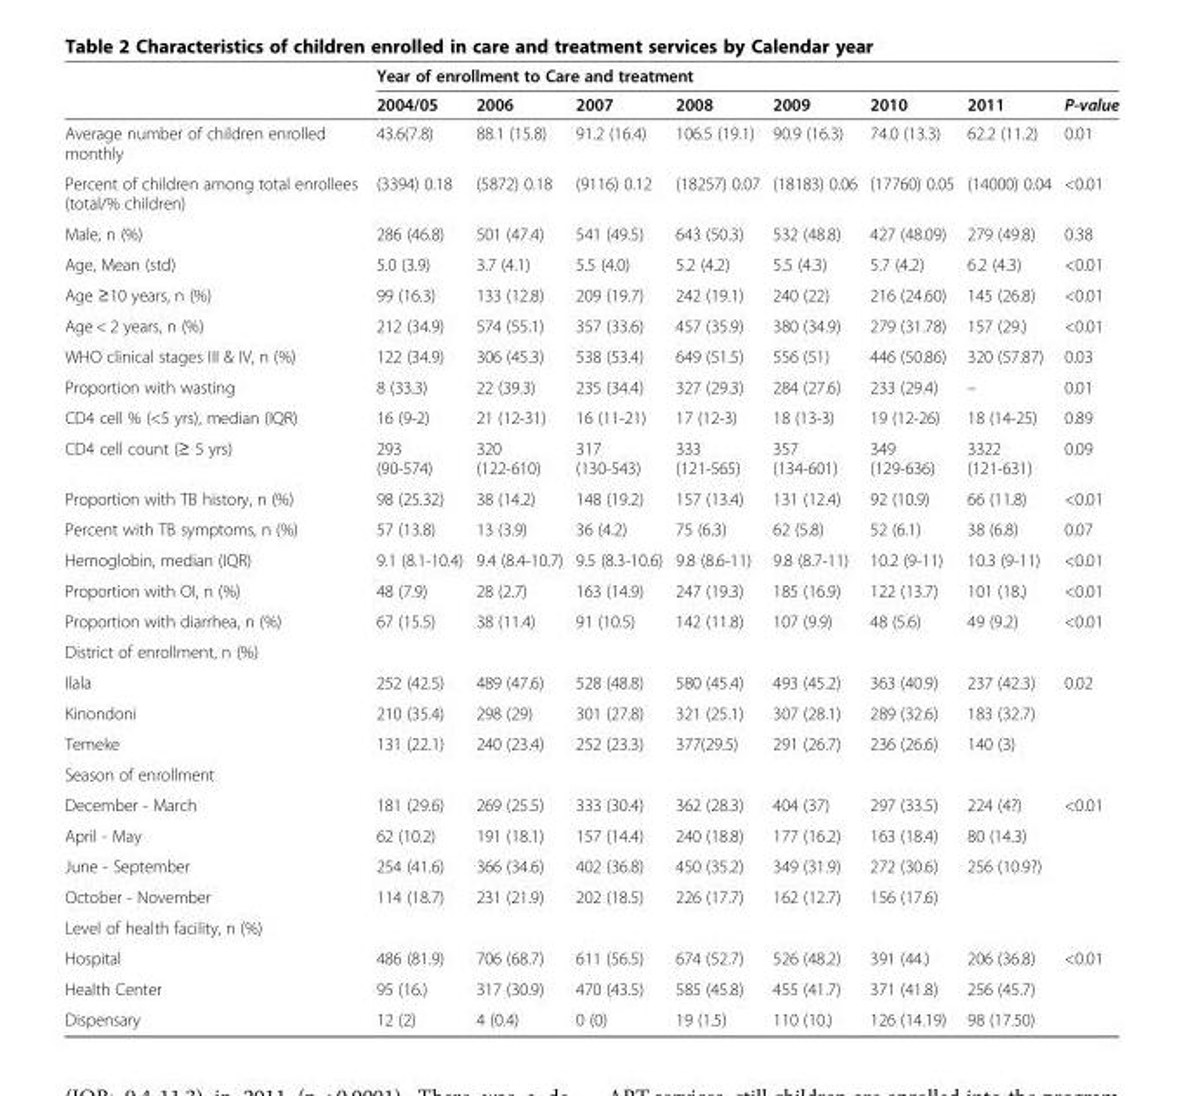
<table><thead><tr><td rowspan="2"></td><td colspan="8">Year of enrollment to Care and treatment</td></tr><tr><td>2004/05</td><td>2006</td><td>2007</td><td>2008</td><td>2009</td><td>2010</td><td>2011</td><td>P-value</td></tr></thead><tbody><tr><td>Average number of children enrolled monthly</td><td>43.6(7.8)</td><td>88.1 (15.8)</td><td>91.2 (16.4)</td><td>106.5 (19.1)</td><td>90.9 (16.3)</td><td>74.0 (13.3)</td><td>62.2 (11.2)</td><td>0.01</td></tr><tr><td>Percent of children among total enrollees (total/% children)</td><td>(3394) 0.18</td><td>(5872) 0.18</td><td>(9116) 0.12</td><td>(18257) 0.07</td><td>(18183) 0.06</td><td>(17760) 0.05</td><td>(14000) 0.04</td><td>&lt;0.01</td></tr><tr><td>Male, n (%)</td><td>286 (46.8)</td><td>501 (47.4)</td><td>541 (49.5)</td><td>643 (50.3)</td><td>532 (48.8)</td><td>427 (48.09)</td><td>279 (49.8)</td><td>0.38</td></tr><tr><td>Age, Mean (std)</td><td>5.0 (3.9)</td><td>3.7 (4.1)</td><td>5.5 (4.0)</td><td>5.2 (4.2)</td><td>5.5 (4.3)</td><td>5.7 (4.2)</td><td>6.2 (4.3)</td><td>&lt;0.01</td></tr><tr><td>Age ≥10 years, n (%)</td><td>99 (16.3)</td><td>133 (12.8)</td><td>209 (19.7)</td><td>242 (19.1)</td><td>240 (22)</td><td>216 (24.60)</td><td>145 (26.8)</td><td>&lt;0.01</td></tr><tr><td>Age &lt; 2 years, n (%)</td><td>212 (34.9)</td><td>574 (55.1)</td><td>357 (33.6)</td><td>457 (35.9)</td><td>380 (34.9)</td><td>279 (31.78)</td><td>157 (29.)</td><td>&lt;0.01</td></tr><tr><td>WHO clinical stages III &amp; IV, n (%)</td><td>122 (34.9)</td><td>306 (45.3)</td><td>538 (53.4)</td><td>649 (51.5)</td><td>556 (51)</td><td>446 (50.86)</td><td>320 (57.87)</td><td>0.03</td></tr><tr><td>Proportion with wasting</td><td>8 (33.3)</td><td>22 (39.3)</td><td>235 (34.4)</td><td>327 (29.3)</td><td>284 (27.6)</td><td>233 (29.4)</td><td>–</td><td>0.01</td></tr><tr><td>CD4 cell % (&lt;5 yrs), median (IQR)</td><td>16 (9-2)</td><td>21 (12-31)</td><td>16 (11-21)</td><td>17 (12-3)</td><td>18 (13-3)</td><td>19 (12-26)</td><td>18 (14-25)</td><td>0.89</td></tr><tr><td>CD4 cell count (≥ 5 yrs)</td><td>293 (90-574)</td><td>320 (122-610)</td><td>317 (130-543)</td><td>333 (121-565)</td><td>357 (134-601)</td><td>349 (129-636)</td><td>3322 (121-631)</td><td>0.09</td></tr><tr><td>Proportion with TB history, n (%)</td><td>98 (25.32)</td><td>38 (14.2)</td><td>148 (19.2)</td><td>157 (13.4)</td><td>131 (12.4)</td><td>92 (10.9)</td><td>66 (11.8)</td><td>&lt;0.01</td></tr><tr><td>Percent with TB symptoms, n (%)</td><td>57 (13.8)</td><td>13 (3.9)</td><td>36 (4.2)</td><td>75 (6.3)</td><td>62 (5.8)</td><td>52 (6.1)</td><td>38 (6.8)</td><td>0.07</td></tr><tr><td>Hemoglobin, median (IQR)</td><td>9.1 (8.1-10.4)</td><td>9.4 (8.4-10.7)</td><td>9.5 (8.3-10.6)</td><td>9.8 (8.6-11)</td><td>9.8 (8.7-11)</td><td>10.2 (9-11)</td><td>10.3 (9-11)</td><td>&lt;0.01</td></tr><tr><td>Proportion with OI, n (%)</td><td>48 (7.9)</td><td>28 (2.7)</td><td>163 (14.9)</td><td>247 (19.3)</td><td>185 (16.9)</td><td>122 (13.7)</td><td>101 (18.)</td><td>&lt;0.01</td></tr><tr><td>Proportion with diarrhea, n (%)</td><td>67 (15.5)</td><td>38 (11.4)</td><td>91 (10.5)</td><td>142 (11.8)</td><td>107 (9.9)</td><td>48 (5.6)</td><td>49 (9.2)</td><td>&lt;0.01</td></tr><tr><td colspan="9">District of enrollment, n (%)</td></tr><tr><td>Ilala</td><td>252 (42.5)</td><td>489 (47.6)</td><td>528 (48.8)</td><td>580 (45.4)</td><td>493 (45.2)</td><td>363 (40.9)</td><td>237 (42.3)</td><td>0.02</td></tr><tr><td>Kinondoni</td><td>210 (35.4)</td><td>298 (29)</td><td>301 (27.8)</td><td>321 (25.1)</td><td>307 (28.1)</td><td>289 (32.6)</td><td>183 (32.7)</td><td></td></tr><tr><td>Temeke</td><td>131 (22.1)</td><td>240 (23.4)</td><td>252 (23.3)</td><td>377(29.5)</td><td>291 (26.7)</td><td>236 (26.6)</td><td>140 (3)</td><td></td></tr><tr><td colspan="9">Season of enrollment</td></tr><tr><td>December - March</td><td>181 (29.6)</td><td>269 (25.5)</td><td>333 (30.4)</td><td>362 (28.3)</td><td>404 (37)</td><td>297 (33.5)</td><td>224 (4?)</td><td>&lt;0.01</td></tr><tr><td>April - May</td><td>62 (10.2)</td><td>191 (18.1)</td><td>157 (14.4)</td><td>240 (18.8)</td><td>177 (16.2)</td><td>163 (18.4)</td><td>80 (14.3)</td><td></td></tr><tr><td>June - September</td><td>254 (41.6)</td><td>366 (34.6)</td><td>402 (36.8)</td><td>450 (35.2)</td><td>349 (31.9)</td><td>272 (30.6)</td><td>256 (10.9?)</td><td></td></tr><tr><td>October - November</td><td>114 (18.7)</td><td>231 (21.9)</td><td>202 (18.5)</td><td>226 (17.7)</td><td>162 (12.7)</td><td>156 (17.6)</td><td></td><td></td></tr><tr><td colspan="9">Level of health facility, n (%)</td></tr><tr><td>Hospital</td><td>486 (81.9)</td><td>706 (68.7)</td><td>611 (56.5)</td><td>674 (52.7)</td><td>526 (48.2)</td><td>391 (44.)</td><td>206 (36.8)</td><td>&lt;0.01</td></tr><tr><td>Health Center</td><td>95 (16.)</td><td>317 (30.9)</td><td>470 (43.5)</td><td>585 (45.8)</td><td>455 (41.7)</td><td>371 (41.8)</td><td>256 (45.7)</td><td></td></tr><tr><td>Dispensary</td><td>12 (2)</td><td>4 (0.4)</td><td>0 (0)</td><td>19 (1.5)</td><td>110 (10.)</td><td>126 (14.19)</td><td>98 (17.50)</td><td></td></tr></tbody></table>